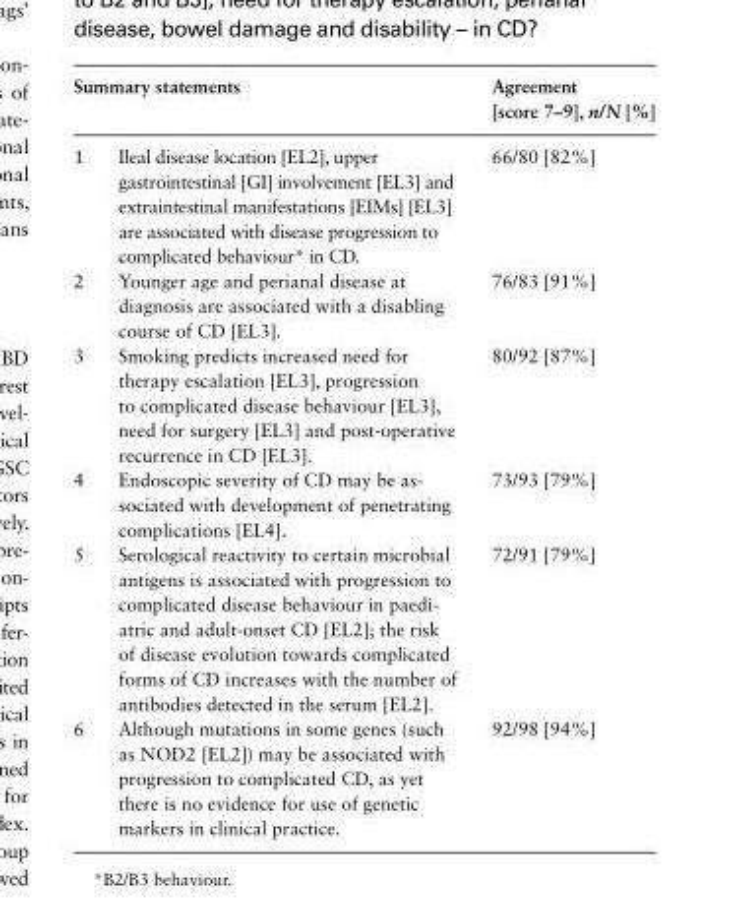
<table><thead><tr><td colspan="2">Summary statements</td><td rowspan="2">Agreement [score 7–9], n/N [%] 66/80 [82%]</td></tr><tr><td>1</td><td>Ileal disease location [EL2], upper gastrointestinal [GI] involvement [EL3] and extraintestinal manifestations [EIMs] [EL3] are associated with disease progression to complicated behaviour* in CD.</td></tr></thead><tbody><tr><td>2</td><td>Younger age and perianal disease at diagnosis are associated with a disabling course of CD [EL3].</td><td>76/83 [91%]</td></tr><tr><td>3</td><td>Smoking predicts increased need for therapy escalation [EL3], progression to complicated disease behaviour [EL3], need for surgery [EL3] and post-operative recurrence in CD [EL3].</td><td>80/92 [87%]</td></tr><tr><td>4</td><td>Endoscopic severity of CD may be as- sociated with development of penetrating complications [EL4].</td><td>73/93 [79%]</td></tr><tr><td>5</td><td>Serological reactivity to certain microbial antigens is associated with progression to complicated disease behaviour in paedi- atric and adult-onset CD [EL2]; the risk of disease evolution towards complicated forms of CD increases with the number of antibodies detected in the serum [EL2].</td><td>72/91 [79%]</td></tr><tr><td>6</td><td>Although mutations in some genes (such as NOD2 [EL2]) may be associated with progression to complicated CD, as yet there is no evidence for use of genetic markers in clinical practice.</td><td>92/98 [94%]</td></tr></tbody></table>